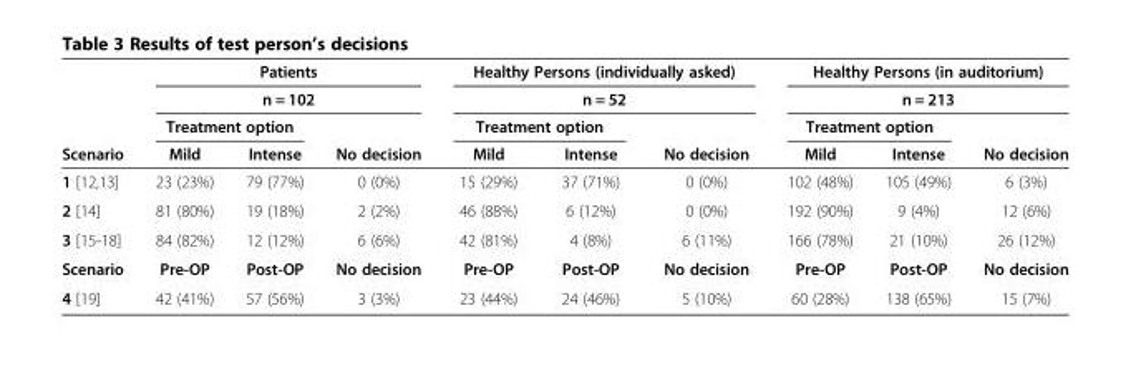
<table><thead><tr><td rowspan="4">Scenario</td><td rowspan="2" colspan="3">Patients n = 102</td><td rowspan="2" colspan="3">Healthy Persons (individually asked) n = 52</td><td rowspan="2" colspan="3">Healthy Persons (in auditorium) n = 213</td></tr><tr></tr><tr><td colspan="2">Treatment option</td><td rowspan="2">No decision</td><td colspan="2">Treatment option</td><td rowspan="2">No decision</td><td colspan="2">Treatment option</td><td rowspan="2">No decision</td></tr><tr><td>Mild</td><td>Intense</td><td>Mild</td><td>Intense</td><td>Mild</td><td>Intense</td></tr></thead><tbody><tr><td>1 [12,13]</td><td>23 (23%)</td><td>79 (77%)</td><td>0 (0%)</td><td>15 (29%)</td><td>37 (71%)</td><td>0 (0%)</td><td>102 (48%)</td><td>105 (49%)</td><td>6 (3%)</td></tr><tr><td>2 [14]</td><td>81 (80%)</td><td>19 (18%)</td><td>2 (2%)</td><td>46 (88%)</td><td>6 (12%)</td><td>0 (0%)</td><td>192 (90%)</td><td>9 (4%)</td><td>12 (6%)</td></tr><tr><td>3 [15-18]</td><td>84 (82%)</td><td>12 (12%)</td><td>6 (6%)</td><td>42 (81%)</td><td>4 (8%)</td><td>6 (11%)</td><td>166 (78%)</td><td>21 (10%)</td><td>26 (12%)</td></tr><tr><td>Scenario</td><td>Pre-OP</td><td>Post-OP</td><td>No decision</td><td>Pre-OP</td><td>Post-OP</td><td>No decision</td><td>Pre-OP</td><td>Post-OP</td><td>No decision</td></tr><tr><td>4 [19]</td><td>42 (41%)</td><td>57 (56%)</td><td>3 (3%)</td><td>23 (44%)</td><td>24 (46%)</td><td>5 (10%)</td><td>60 (28%)</td><td>138 (65%)</td><td>15 (7%)</td></tr></tbody></table>